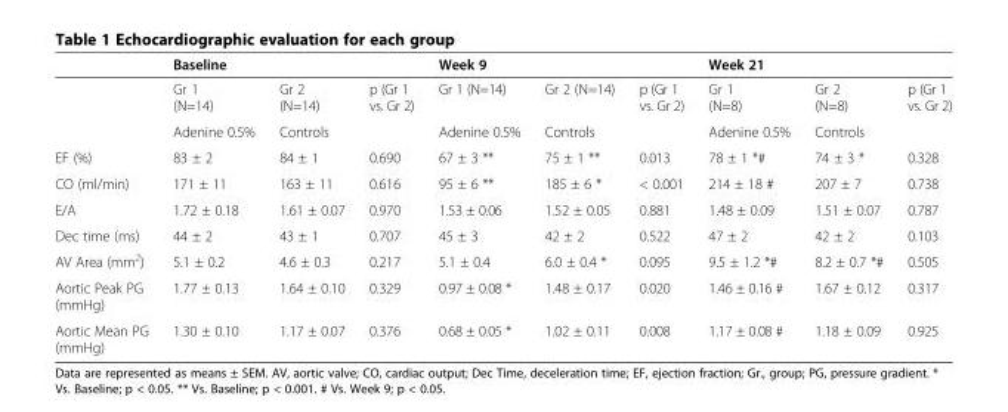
<table><thead><tr><td></td><td>Baseline</td><td></td><td></td><td>Week 9</td><td></td><td></td><td>Week 21</td><td></td><td></td></tr></thead><tbody><tr><td></td><td>Gr 1 (N=14)</td><td>Gr 2 (N=14)</td><td>p (Gr 1 vs. Gr 2)</td><td>Gr 1 (N=14)</td><td>Gr 2 (N=14)</td><td>p (Gr 1 vs. Gr 2)</td><td>Gr 1 (N=8)</td><td>Gr 2 (N=8)</td><td>p (Gr 1 vs. Gr 2)</td></tr><tr><td></td><td>Adenine 0.5%</td><td>Controls</td><td></td><td>Adenine 0.5%</td><td>Controls</td><td></td><td>Adenine 0.5%</td><td>Controls</td><td></td></tr><tr><td>EF (%)</td><td>83 ± 2</td><td>84 ± 1</td><td>0.690</td><td>67 ± 3 **</td><td>75 ± 1 **</td><td>0.013</td><td>78 ± 1 *#</td><td>74 ± 3 *</td><td>0.328</td></tr><tr><td>CO (ml/min)</td><td>171 ± 11</td><td>163 ± 11</td><td>0.616</td><td>95 ± 6 **</td><td>185 ± 6 *</td><td>&lt; 0.001</td><td>214 ± 18 #</td><td>207 ± 7</td><td>0.738</td></tr><tr><td>E/A</td><td>1.72 ± 0.18</td><td>1.61 ± 0.07</td><td>0.970</td><td>1.53 ± 0.06</td><td>1.52 ± 0.05</td><td>0.881</td><td>1.48 ± 0.09</td><td>1.51 ± 0.07</td><td>0.787</td></tr><tr><td>Dec time (ms)</td><td>44 ± 2</td><td>43 ± 1</td><td>0.707</td><td>45 ± 3</td><td>42 ± 2</td><td>0.522</td><td>47 ± 2</td><td>42 ± 2</td><td>0.103</td></tr><tr><td>AV Area (mm<sup>2</sup>)</td><td>5.1 ± 0.2</td><td>4.6 ± 0.3</td><td>0.217</td><td>5.1 ± 0.4</td><td>6.0 ± 0.4 *</td><td>0.095</td><td>9.5 ± 1.2 *#</td><td>8.2 ± 0.7 *#</td><td>0.505</td></tr><tr><td>Aortic Peak PG (mmHg)</td><td>1.77 ± 0.13</td><td>1.64 ± 0.10</td><td>0.329</td><td>0.97 ± 0.08 *</td><td>1.48 ± 0.17</td><td>0.020</td><td>1.46 ± 0.16 #</td><td>1.67 ± 0.12</td><td>0.317</td></tr><tr><td>Aortic Mean PG (mmHg)</td><td>1.30 ± 0.10</td><td>1.17 ± 0.07</td><td>0.376</td><td>0.68 ± 0.05 *</td><td>1.02 ± 0.11</td><td>0.008</td><td>1.17 ± 0.08 #</td><td>1.18 ± 0.09</td><td>0.925</td></tr></tbody></table>